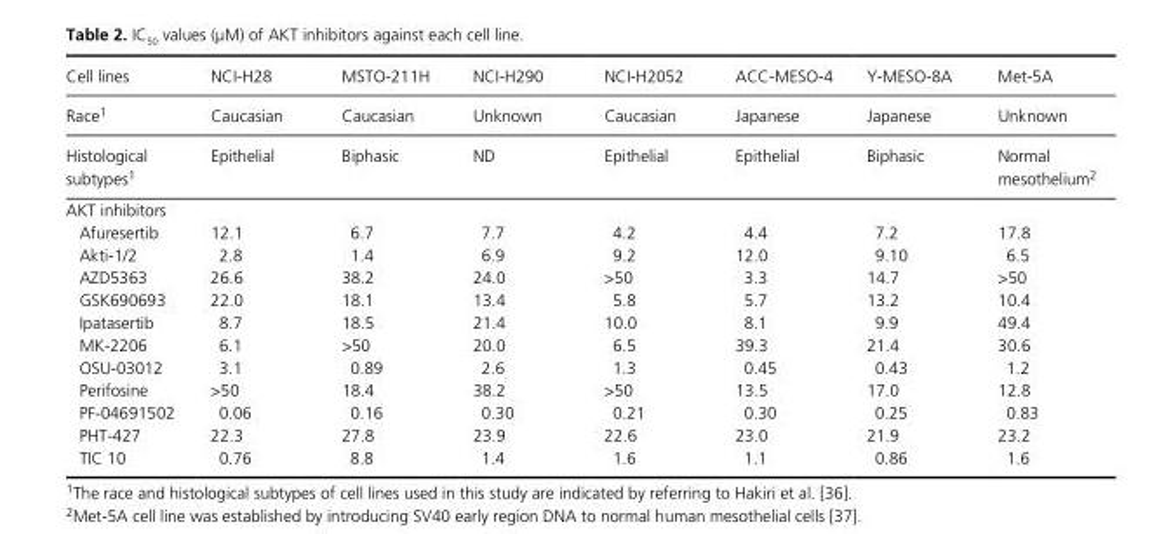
<table><thead><tr><td rowspan="3">Cell lines Race1 Histological subtypes1</td><td rowspan="3">NCI- H28 Caucasian Epithelial</td><td rowspan="3">MSTO- 211H Caucasian Biphasic</td><td rowspan="3">NCI- H290 Unknown ND</td><td rowspan="3">NCI- H2052 Caucasian Epithelial</td><td rowspan="3">ACC- MESO- 4 Japanese Epithelial</td><td rowspan="3">Y- MESO- 8A Japanese Biphasic</td><td rowspan="3">Met- 5A Unknown Normal mesothelium2</td></tr><tr></tr><tr></tr></thead><tbody><tr><td colspan="8">AKT inhibitors</td></tr><tr><td>Afuresertib</td><td>12.1</td><td>6.7</td><td>7.7</td><td>4.2</td><td>4.4</td><td>7.2</td><td>17.8</td></tr><tr><td>Akti- 1/2</td><td>2.8</td><td>1.4</td><td>6.9</td><td>9.2</td><td>12.0</td><td>9.10</td><td>6.5</td></tr><tr><td>AZD5363</td><td>26.6</td><td>38.2</td><td>24.0</td><td>&gt;50</td><td>3.3</td><td>14.7</td><td>&gt;50</td></tr><tr><td>GSK690693</td><td>22.0</td><td>18.1</td><td>13.4</td><td>5.8</td><td>5.7</td><td>13.2</td><td>10.4</td></tr><tr><td>Ipatasertib</td><td>8.7</td><td>18.5</td><td>21.4</td><td>10.0</td><td>8.1</td><td>9.9</td><td>49.4</td></tr><tr><td>MK- 2206</td><td>6.1</td><td>&gt;50</td><td>20.0</td><td>6.5</td><td>39.3</td><td>21.4</td><td>30.6</td></tr><tr><td>OSU- 03012</td><td>3.1</td><td>0.89</td><td>2.6</td><td>1.3</td><td>0.45</td><td>0.43</td><td>1.2</td></tr><tr><td>Perifosine</td><td>&gt;50</td><td>18.4</td><td>38.2</td><td>&gt;50</td><td>13.5</td><td>17.0</td><td>12.8</td></tr><tr><td>PF- 04691502</td><td>0.06</td><td>0.16</td><td>0.30</td><td>0.21</td><td>0.30</td><td>0.25</td><td>0.83</td></tr><tr><td>PHT- 427</td><td>22.3</td><td>27.8</td><td>23.9</td><td>22.6</td><td>23.0</td><td>21.9</td><td>23.2</td></tr><tr><td>TIC 10</td><td>0.76</td><td>8.8</td><td>1.4</td><td>1.6</td><td>1.1</td><td>0.86</td><td>1.6</td></tr></tbody></table>